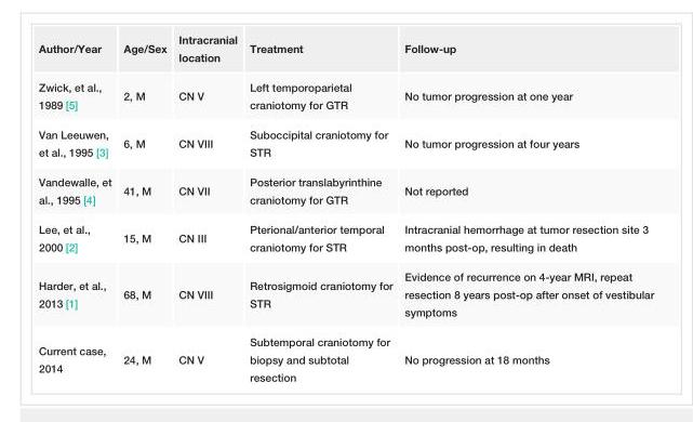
<table><tbody><tr><td>Author/Year</td><td>Age/Sex</td><td>Intracranial location</td><td>Treatment</td><td>Follow-up</td></tr><tr><td>Zwick, et al., 1989 [5]</td><td>2, M</td><td>CN V</td><td>Left temporoparietal craniotomy for GTR</td><td>No tumor progression at one year</td></tr><tr><td>Van Leeuwen, et al., 1995 [3]</td><td>6, M</td><td>CN VIII</td><td>Suboccipital craniotomy for STR</td><td>No tumor progression at four years</td></tr><tr><td>Vandewalle, et al., 1995 [4]</td><td>41, M</td><td>CN VII</td><td>Posterior translabyrinthine craniotomy for GTR</td><td>Not reported</td></tr><tr><td>Lee, et al., 2000 [2]</td><td>15, M</td><td>CN III</td><td>Pterional/anterior temporal craniotomy for STR</td><td>Intracranial hemorrhage at tumor resection site 3 months post-op, resulting in death</td></tr><tr><td>Harder, et al., 2013 [1]</td><td>68, M</td><td>CN VIII</td><td>Retrosigmoid craniotomy for STR</td><td>Evidence of recurrence on 4-year MRI, repeat resection 8 years post-op after onset of vestibular symptoms</td></tr><tr><td>Current case, 2014</td><td>24, M</td><td>CN V</td><td>Subtemporal craniotomy for biopsy and subtotal resection</td><td>No progression at 18 months</td></tr></tbody></table>